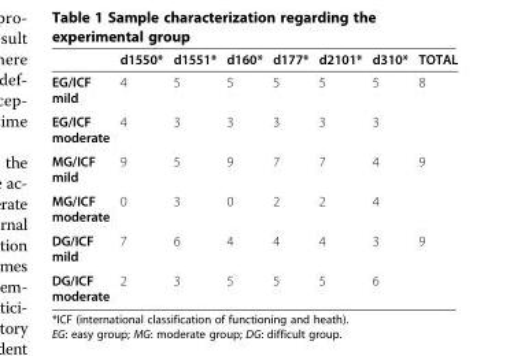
<table><thead><tr><td></td><td>d1550*</td><td>d1551*</td><td>d160*</td><td>d177*</td><td>d2101*</td><td>d310*</td><td>TOTAL</td></tr></thead><tbody><tr><td>EG/ICF mild</td><td>4</td><td>5</td><td>5</td><td>5</td><td>5</td><td>5</td><td>8</td></tr><tr><td>EG/ICF moderate</td><td>4</td><td>3</td><td>3</td><td>3</td><td>3</td><td>3</td><td></td></tr><tr><td>MG/ICF mild</td><td>9</td><td>5</td><td>9</td><td>7</td><td>7</td><td>4</td><td>9</td></tr><tr><td>MG/ICF moderate</td><td>0</td><td>3</td><td>0</td><td>2</td><td>2</td><td>4</td><td></td></tr><tr><td>DG/ICF mild</td><td>7</td><td>6</td><td>4</td><td>4</td><td>4</td><td>3</td><td>9</td></tr><tr><td>DG/ICF moderate</td><td>2</td><td>3</td><td>5</td><td>5</td><td>5</td><td>6</td><td></td></tr></tbody></table>